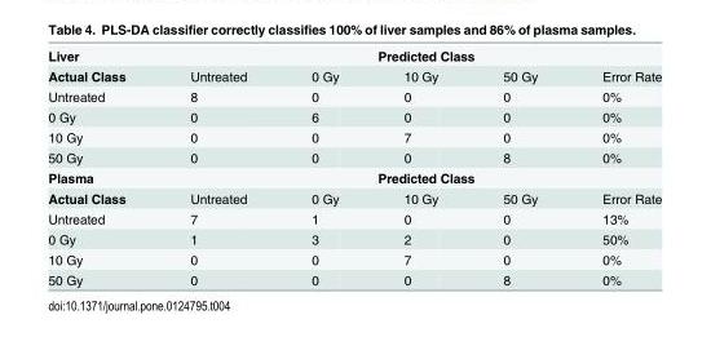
<table><tbody><tr><td>Liver</td><td colspan="5">Predicted Class</td></tr><tr><td>Actual Class</td><td>Untreated</td><td>0 Gy</td><td>10 Gy</td><td>50 Gy</td><td>Error Rate</td></tr><tr><td>Untreated</td><td>8</td><td>0</td><td>0</td><td>0</td><td>0%</td></tr><tr><td>0 Gy</td><td>0</td><td>6</td><td>0</td><td>0</td><td>0%</td></tr><tr><td>10 Gy</td><td>0</td><td>0</td><td>7</td><td>0</td><td>0%</td></tr><tr><td>50 Gy</td><td>0</td><td>0</td><td>0</td><td>8</td><td>0%</td></tr><tr><td>Plasma</td><td colspan="5">Predicted Class</td></tr><tr><td>Actual Class</td><td>Untreated</td><td>0 Gy</td><td>10 Gy</td><td>50 Gy</td><td>Error Rate</td></tr><tr><td>Untreated</td><td>7</td><td>1</td><td>0</td><td>0</td><td>13%</td></tr><tr><td>0 Gy</td><td>1</td><td>3</td><td>2</td><td>0</td><td>50%</td></tr><tr><td>10 Gy</td><td>0</td><td>0</td><td>7</td><td>0</td><td>0%</td></tr><tr><td>50 Gy</td><td>0</td><td>0</td><td>0</td><td>8</td><td>0%</td></tr></tbody></table>